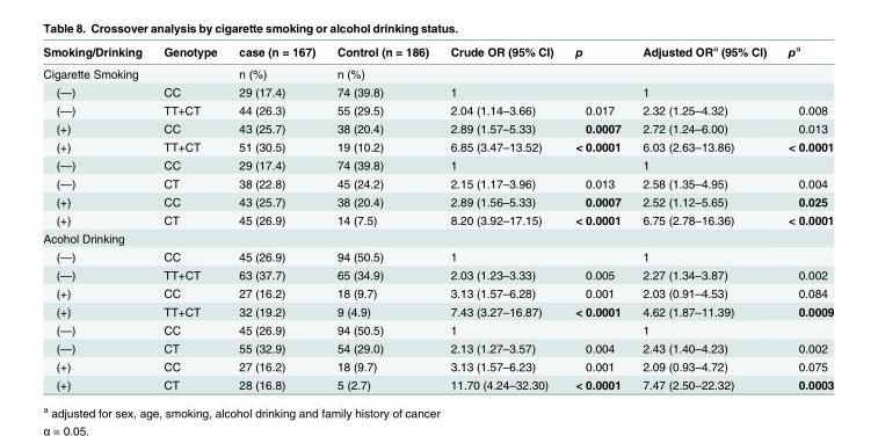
<table><thead><tr><td>Smoking/Drinking</td><td>Genotype</td><td>case (n = 167)</td><td>Control (n = 186)</td><td>Crude OR (95% CI)</td><td>p</td><td>Adjusted OR<sup>a</sup> (95% CI)</td><td>p<sup>a</sup></td></tr></thead><tbody><tr><td>Cigarette Smoking</td><td></td><td>n (%)</td><td>n (%)</td><td></td><td></td><td></td><td></td></tr><tr><td>(—)</td><td>CC</td><td>29 (17.4)</td><td>74 (39.8)</td><td>1</td><td></td><td>1</td><td></td></tr><tr><td>(—)</td><td>TT+CT</td><td>44 (26.3)</td><td>55 (29.5)</td><td>2.04 (1.14–3.66)</td><td>0.017</td><td>2.32 (1.25–4.32)</td><td>0.008</td></tr><tr><td>(+)</td><td>CC</td><td>43 (25.7)</td><td>38 (20.4)</td><td>2.89 (1.57–5.33)</td><td>0.0007</td><td>2.72 (1.24–6.00)</td><td>0.013</td></tr><tr><td>(+)</td><td>TT+CT</td><td>51 (30.5)</td><td>19 (10.2)</td><td>6.85 (3.47–13.52)</td><td>&lt; 0.0001</td><td>6.03 (2.63–13.86)</td><td>&lt; 0.0001</td></tr><tr><td>(—)</td><td>CC</td><td>29 (17.4)</td><td>74 (39.8)</td><td>1</td><td></td><td>1</td><td></td></tr><tr><td>(—)</td><td>CT</td><td>38 (22.8)</td><td>45 (24.2)</td><td>2.15 (1.17–3.96)</td><td>0.013</td><td>2.58 (1.35–4.95)</td><td>0.004</td></tr><tr><td>(+)</td><td>CC</td><td>43 (25.7)</td><td>38 (20.4)</td><td>2.89 (1.56–5.33)</td><td>0.0007</td><td>2.52 (1.12–5.65)</td><td>0.025</td></tr><tr><td>(+)</td><td>CT</td><td>45 (26.9)</td><td>14 (7.5)</td><td>8.20 (3.92–17.15)</td><td>&lt; 0.0001</td><td>6.75 (2.78–16.36)</td><td>&lt; 0.0001</td></tr><tr><td colspan="8">Acohol Drinking</td></tr><tr><td>(—)</td><td>CC</td><td>45 (26.9)</td><td>94 (50.5)</td><td>1</td><td></td><td>1</td><td></td></tr><tr><td>(—)</td><td>TT+CT</td><td>63 (37.7)</td><td>65 (34.9)</td><td>2.03 (1.23–3.33)</td><td>0.005</td><td>2.27 (1.34–3.87)</td><td>0.002</td></tr><tr><td>(+)</td><td>CC</td><td>27 (16.2)</td><td>18 (9.7)</td><td>3.13 (1.57–6.28)</td><td>0.001</td><td>2.03 (0.91–4.53)</td><td>0.084</td></tr><tr><td>(+)</td><td>TT+CT</td><td>32 (19.2)</td><td>9 (4.9)</td><td>7.43 (3.27–16.87)</td><td>&lt; 0.0001</td><td>4.62 (1.87–11.39)</td><td>0.0009</td></tr><tr><td>(—)</td><td>CC</td><td>45 (26.9)</td><td>94 (50.5)</td><td>1</td><td></td><td>1</td><td></td></tr><tr><td>(—)</td><td>CT</td><td>55 (32.9)</td><td>54 (29.0)</td><td>2.13 (1.27–3.57)</td><td>0.004</td><td>2.43 (1.40–4.23)</td><td>0.002</td></tr><tr><td>(+)</td><td>CC</td><td>27 (16.2)</td><td>18 (9.7)</td><td>3.13 (1.57–6.23)</td><td>0.001</td><td>2.09 (0.93–4.72)</td><td>0.075</td></tr><tr><td>(+)</td><td>CT</td><td>28 (16.8)</td><td>5 (2.7)</td><td>11.70 (4.24–32.30)</td><td>&lt; 0.0001</td><td>7.47 (2.50–22.32)</td><td>0.0003</td></tr></tbody></table>